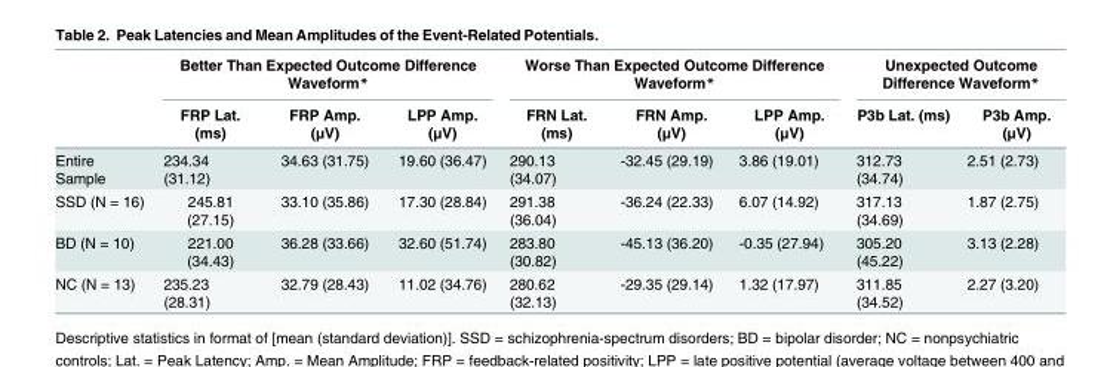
<table><thead><tr><td rowspan="2"></td><td colspan="3">Better Than Expected Outcome Difference Waveform*</td><td colspan="3">Worse Than Expected Outcome Difference Waveform*</td><td colspan="2">Unexpected Outcome Difference Waveform*</td></tr><tr><td>FRP Lat. (ms)</td><td>FRP Amp. (μV)</td><td>LPP Amp. (μV)</td><td>FRN Lat. (ms)</td><td>FRN Amp. (μV)</td><td>LPP Amp. (μV)</td><td>P3b Lat. (ms)</td><td>P3b Amp. (μV)</td></tr></thead><tbody><tr><td>Entire Sample</td><td>234.34 (31.12)</td><td>34.63 (31.75)</td><td>19.60 (36.47)</td><td>290.13 (34.07)</td><td>-32.45 (29.19)</td><td>3.86 (19.01)</td><td>312.73 (34.74)</td><td>2.51 (2.73)</td></tr><tr><td>SSD (N = 16)</td><td>245.81 (27.15)</td><td>33.10 (35.86)</td><td>17.30 (28.84)</td><td>291.38 (36.04)</td><td>-36.24 (22.33)</td><td>6.07 (14.92)</td><td>317.13 (34.69)</td><td>1.87 (2.75)</td></tr><tr><td>BD (N = 10)</td><td>221.00 (34.43)</td><td>36.28 (33.66)</td><td>32.60 (51.74)</td><td>283.80 (30.82)</td><td>-45.13 (36.20)</td><td>-0.35 (27.94)</td><td>305.20 (45.22)</td><td>3.13 (2.28)</td></tr><tr><td>NC (N = 13)</td><td>235.23 (28.31)</td><td>32.79 (28.43)</td><td>11.02 (34.76)</td><td>280.62 (32.13)</td><td>-29.35 (29.14)</td><td>1.32 (17.97)</td><td>311.85 (34.52)</td><td>2.27 (3.20)</td></tr></tbody></table>